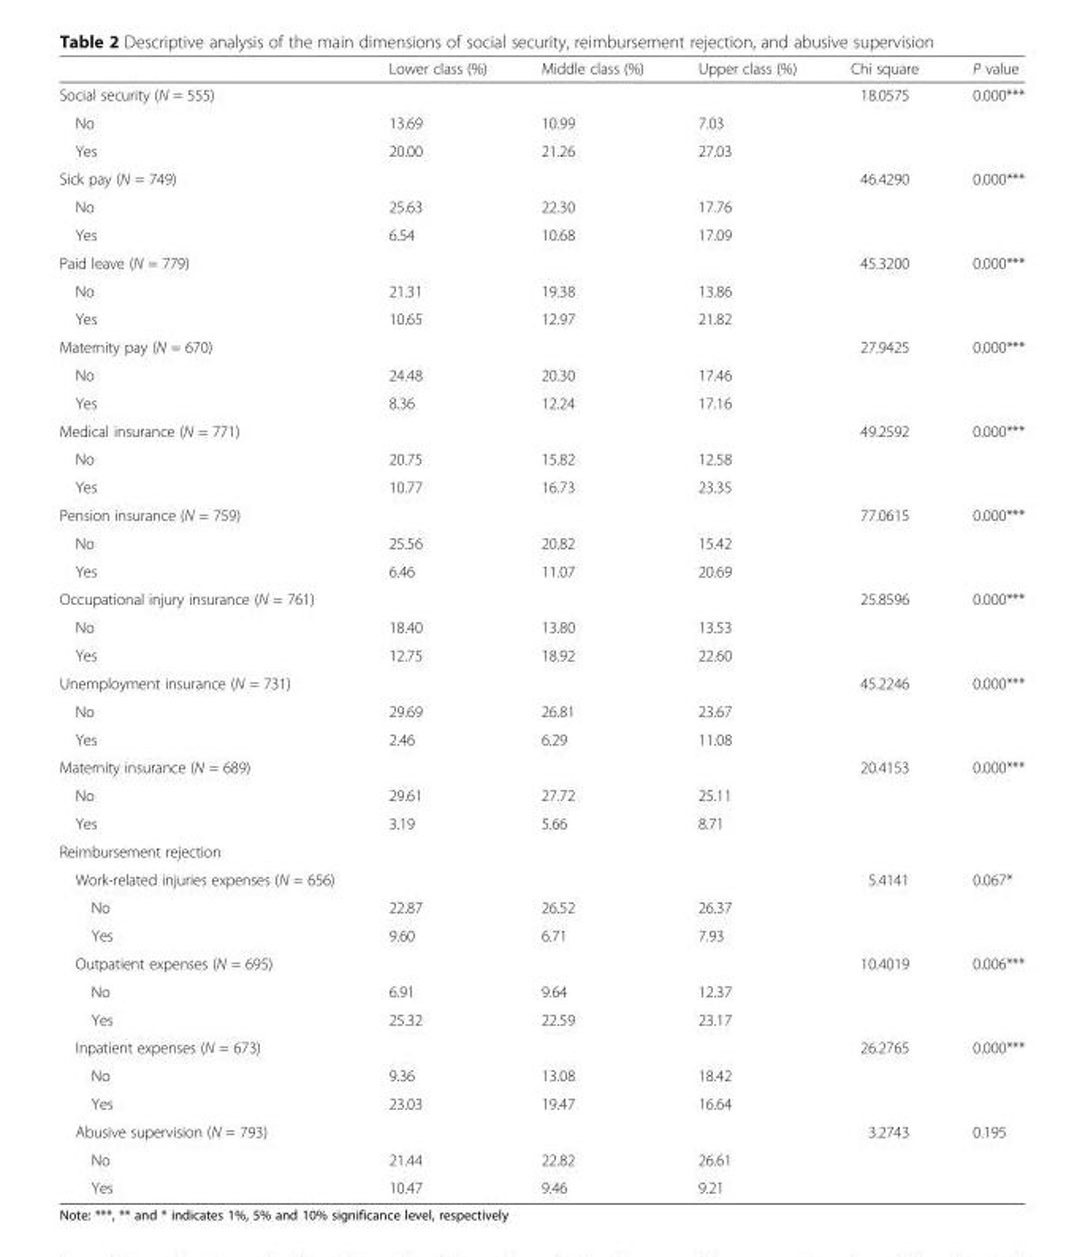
<table><thead><tr><td></td><td>Lower class (%)</td><td>Middle class (%)</td><td>Upper class (%)</td><td>Chi square</td><td>P value</td></tr></thead><tbody><tr><td>Social security (N = 555)</td><td></td><td></td><td></td><td>18.0575</td><td>0.000***</td></tr><tr><td>No</td><td>13.69</td><td>10.99</td><td>7.03</td><td></td><td></td></tr><tr><td>Yes</td><td>20.00</td><td>21.26</td><td>27.03</td><td></td><td></td></tr><tr><td>Sick pay (N = 749)</td><td></td><td></td><td></td><td>46.4290</td><td>0.000***</td></tr><tr><td>No</td><td>25.63</td><td>22.30</td><td>17.76</td><td></td><td></td></tr><tr><td>Yes</td><td>6.54</td><td>10.68</td><td>17.09</td><td></td><td></td></tr><tr><td>Paid leave (N = 779)</td><td></td><td></td><td></td><td>45.3200</td><td>0.000***</td></tr><tr><td>No</td><td>21.31</td><td>19.38</td><td>13.86</td><td></td><td></td></tr><tr><td>Yes</td><td>10.65</td><td>12.97</td><td>21.82</td><td></td><td></td></tr><tr><td>Maternity pay (N = 670)</td><td></td><td></td><td></td><td>27.9425</td><td>0.000***</td></tr><tr><td>No</td><td>24.48</td><td>20.30</td><td>17.46</td><td></td><td></td></tr><tr><td>Yes</td><td>8.36</td><td>12.24</td><td>17.16</td><td></td><td></td></tr><tr><td>Medical insurance (N = 771)</td><td></td><td></td><td></td><td>49.2592</td><td>0.000***</td></tr><tr><td>No</td><td>20.75</td><td>15.82</td><td>12.58</td><td></td><td></td></tr><tr><td>Yes</td><td>10.77</td><td>16.73</td><td>23.35</td><td></td><td></td></tr><tr><td>Pension insurance (N = 759)</td><td></td><td></td><td></td><td>77.0615</td><td>0.000***</td></tr><tr><td>No</td><td>25.56</td><td>20.82</td><td>15.42</td><td></td><td></td></tr><tr><td>Yes</td><td>6.46</td><td>11.07</td><td>20.69</td><td></td><td></td></tr><tr><td>Occupational injury insurance (N = 761)</td><td></td><td></td><td></td><td>25.8596</td><td>0.000***</td></tr><tr><td>No</td><td>18.40</td><td>13.80</td><td>13.53</td><td></td><td></td></tr><tr><td>Yes</td><td>12.75</td><td>18.92</td><td>22.60</td><td></td><td></td></tr><tr><td>Unemployment insurance (N = 731)</td><td></td><td></td><td></td><td>45.2246</td><td>0.000***</td></tr><tr><td>No</td><td>29.69</td><td>26.81</td><td>23.67</td><td></td><td></td></tr><tr><td>Yes</td><td>2.46</td><td>6.29</td><td>11.08</td><td></td><td></td></tr><tr><td>Maternity insurance (N = 689)</td><td></td><td></td><td></td><td>20.4153</td><td>0.000***</td></tr><tr><td>No</td><td>29.61</td><td>27.72</td><td>25.11</td><td></td><td></td></tr><tr><td>Yes</td><td>3.19</td><td>5.66</td><td>8.71</td><td></td><td></td></tr><tr><td colspan="6">Reimbursement rejection</td></tr><tr><td>Work-related injuries expenses (N = 656)</td><td></td><td></td><td></td><td>5.4141</td><td>0.067*</td></tr><tr><td>No</td><td>22.87</td><td>26.52</td><td>26.37</td><td></td><td></td></tr><tr><td>Yes</td><td>9.60</td><td>6.71</td><td>7.93</td><td></td><td></td></tr><tr><td>Outpatient expenses (N = 695)</td><td></td><td></td><td></td><td>10.4019</td><td>0.006***</td></tr><tr><td>No</td><td>6.91</td><td>9.64</td><td>12.37</td><td></td><td></td></tr><tr><td>Yes</td><td>25.32</td><td>22.59</td><td>23.17</td><td></td><td></td></tr><tr><td>Inpatient expenses (N = 673)</td><td></td><td></td><td></td><td>26.2765</td><td>0.000***</td></tr><tr><td>No</td><td>9.36</td><td>13.08</td><td>18.42</td><td></td><td></td></tr><tr><td>Yes</td><td>23.03</td><td>19.47</td><td>16.64</td><td></td><td></td></tr><tr><td>Abusive supervision (N = 793)</td><td></td><td></td><td></td><td>3.2743</td><td>0.195</td></tr><tr><td>No</td><td>21.44</td><td>22.82</td><td>26.61</td><td></td><td></td></tr><tr><td>Yes</td><td>10.47</td><td>9.46</td><td>9.21</td><td></td><td></td></tr></tbody></table>